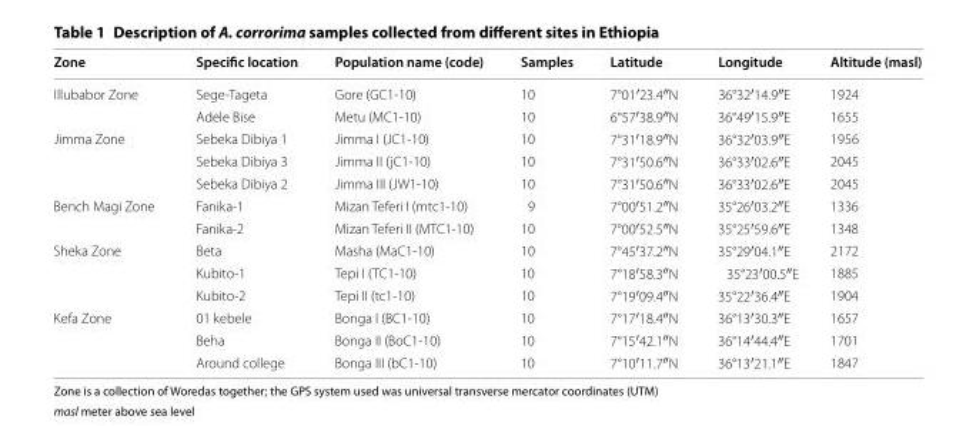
<table><thead><tr><td>Zone</td><td>Specific location</td><td>Population name (code)</td><td>Samples</td><td>Latitude</td><td>Longitude</td><td>Altitude (masl)</td></tr></thead><tbody><tr><td rowspan="2">Illubabor Zone</td><td>Sege-Tageta</td><td>Gore (GC1-10)</td><td>10</td><td>7°01′23.4″N</td><td>36°32′14.9″E</td><td>1924</td></tr><tr><td>Adele Bise</td><td>Metu (MC1-10)</td><td>10</td><td>6°57′38.9″N</td><td>36°49′15.9″E</td><td>1655</td></tr><tr><td rowspan="3">Jimma Zone</td><td>Sebeka Dibiya 1</td><td>Jimma I (JC1-10)</td><td>10</td><td>7°31′18.9″N</td><td>36°32′03.9″E</td><td>1956</td></tr><tr><td>Sebeka Dibiya 3</td><td>Jimma II (jC1-10)</td><td>10</td><td>7°31′50.6″N</td><td>36°33′02.6″E</td><td>2045</td></tr><tr><td>Sebeka Dibiya 2</td><td>Jimma III (JW1-10)</td><td>10</td><td>7°31′50.6″N</td><td>36°33′02.6″E</td><td>2045</td></tr><tr><td rowspan="2">Bench Magi Zone</td><td>Fanika-1</td><td>Mizan Teferi I (mtc1-10)</td><td>9</td><td>7°00′51.2″N</td><td>35°26′03.2″E</td><td>1336</td></tr><tr><td>Fanika-2</td><td>Mizan Teferi II (MTC1-10)</td><td>10</td><td>7°00′52.5″N</td><td>35°25′59.6″E</td><td>1348</td></tr><tr><td rowspan="3">Sheka Zone</td><td>Beta</td><td>Masha (MaC1-10)</td><td>10</td><td>7°45′37.2″N</td><td>35°29′04.1″E</td><td>2172</td></tr><tr><td>Kubito-1</td><td>Tepi I (TC1-10)</td><td>10</td><td>7°18′58.3″N</td><td>35°23′00.5″E</td><td>1885</td></tr><tr><td>Kubito-2</td><td>Tepi II (tc1-10)</td><td>10</td><td>7°19′09.4″N</td><td>35°22′36.4″E</td><td>1904</td></tr><tr><td rowspan="3">Kefa Zone</td><td>01 kebele</td><td>Bonga I (BC1-10)</td><td>10</td><td>7°17′18.4″N</td><td>36°13′30.3″E</td><td>1657</td></tr><tr><td>Beha</td><td>Bonga II (BoC1-10)</td><td>10</td><td>7°15′42.1″N</td><td>36°14′44.4″E</td><td>1701</td></tr><tr><td>Around college</td><td>Bonga III (bC1-10)</td><td>10</td><td>7°10′11.7″N</td><td>36°13′21.1″E</td><td>1847</td></tr></tbody></table>